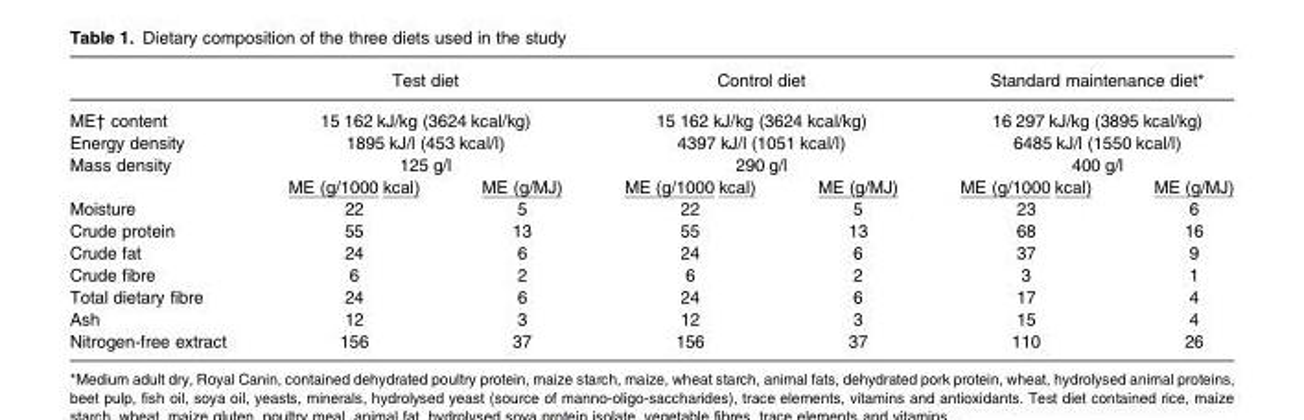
<table><thead><tr><td></td><td colspan="2">Test diet</td><td colspan="2">Control diet</td><td colspan="2">Standard maintenance diet*</td></tr></thead><tbody><tr><td>ME† content</td><td colspan="2">15 162 kJ/kg (3624 kcal/kg)</td><td colspan="2">15 162 kJ/kg (3624 kcal/kg)</td><td colspan="2">16 297 kJ/kg (3895 kcal/kg)</td></tr><tr><td>Energy density</td><td colspan="2">1895 kJ/l (453 kcal/l)</td><td colspan="2">4397 kJ/l (1051 kcal/l)</td><td colspan="2">6485 kJ/l (1550 kcal/l)</td></tr><tr><td rowspan="2">Mass density</td><td colspan="2">125 g/l</td><td colspan="2">290 g/l</td><td colspan="2">400 g/l</td></tr><tr><td>ME (g/1000 kcal)</td><td>ME (g/MJ)</td><td>ME (g/1000 kcal)</td><td>ME (g/MJ)</td><td>ME (g/1000 kcal)</td><td>ME (g/MJ)</td></tr><tr><td>Moisture</td><td>22</td><td>5</td><td>22</td><td>5</td><td>23</td><td>6</td></tr><tr><td>Crude protein</td><td>55</td><td>13</td><td>55</td><td>13</td><td>68</td><td>16</td></tr><tr><td>Crude fat</td><td>24</td><td>6</td><td>24</td><td>6</td><td>37</td><td>9</td></tr><tr><td>Crude fibre</td><td>6</td><td>2</td><td>6</td><td>2</td><td>3</td><td>1</td></tr><tr><td>Total dietary fibre</td><td>24</td><td>6</td><td>24</td><td>6</td><td>17</td><td>4</td></tr><tr><td>Ash</td><td>12</td><td>3</td><td>12</td><td>3</td><td>15</td><td>4</td></tr><tr><td>Nitrogen-free extract</td><td>156</td><td>37</td><td>156</td><td>37</td><td>110</td><td>26</td></tr></tbody></table>